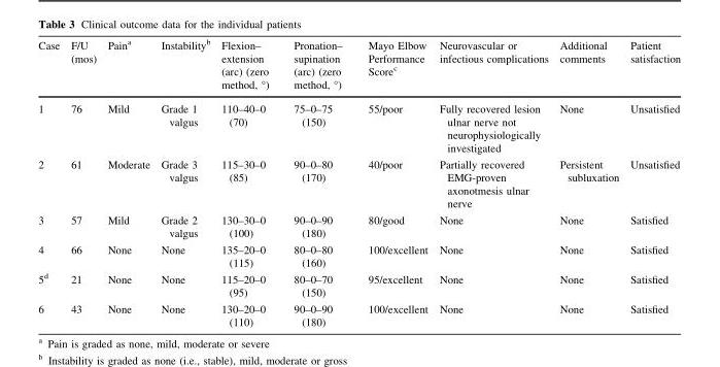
<table><thead><tr><td>Case</td><td>F/U (mos)</td><td>Pain<sup>a</sup></td><td>Instability<sup>b</sup></td><td>Flexion– extension (arc) (zero method, °)</td><td>Pronation– supination (arc) (zero method, °)</td><td>Mayo Elbow Performance Score<sup>c</sup></td><td>Neurovascular or infectious complications</td><td>Additional comments</td><td>Patient satisfaction</td></tr></thead><tbody><tr><td>1</td><td>76</td><td>Mild</td><td>Grade 1 valgus</td><td>110–40–0 (70)</td><td>75–0–75 (150)</td><td>55/poor</td><td>Fully recovered lesion ulnar nerve not neurophysiologically investigated</td><td>None</td><td>Unsatisfied</td></tr><tr><td>2</td><td>61</td><td>Moderate</td><td>Grade 3 valgus</td><td>115–30–0 (85)</td><td>90–0–80 (170)</td><td>40/poor</td><td>Partially recovered EMG-proven axonotmesis ulnar nerve</td><td>Persistent subluxation</td><td>Unsatisfied</td></tr><tr><td>3</td><td>57</td><td>Mild</td><td>Grade 2 valgus</td><td>130–30–0 (100)</td><td>90–0–90 (180)</td><td>80/good</td><td>None</td><td>None</td><td>Satisfied</td></tr><tr><td>4</td><td>66</td><td>None</td><td>None</td><td>135–20–0 (115)</td><td>80–0–80 (160)</td><td>100/excellent</td><td>None</td><td>None</td><td>Satisfied</td></tr><tr><td>5<sup>d</sup></td><td>21</td><td>None</td><td>None</td><td>115–20–0 (95)</td><td>80–0–70 (150)</td><td>95/excellent</td><td>None</td><td>None</td><td>Satisfied</td></tr><tr><td>6</td><td>43</td><td>None</td><td>None</td><td>130–20–0 (110)</td><td>90–0–90 (180)</td><td>100/excellent</td><td>None</td><td>None</td><td>Satisfied</td></tr></tbody></table>